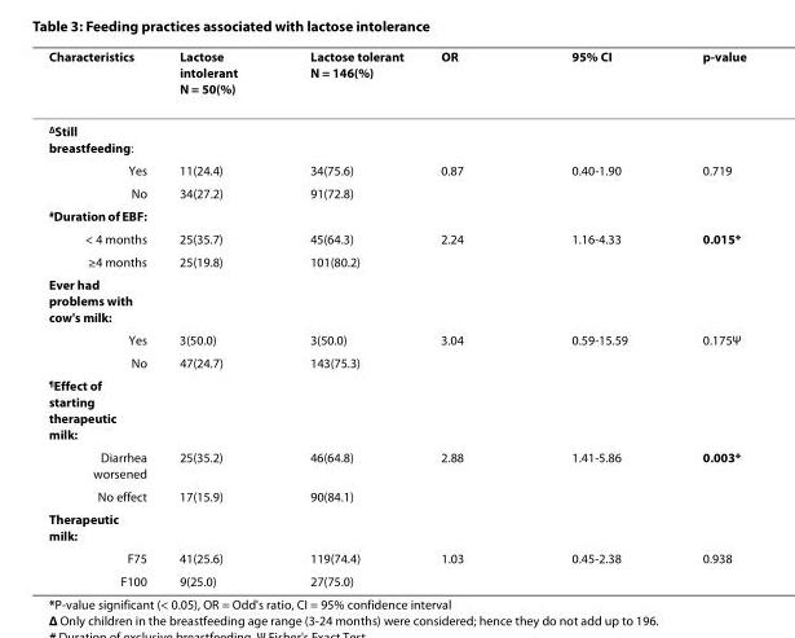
<table><thead><tr><td>Characteristics</td><td>Lactose intolerant N = 50(%)</td><td>Lactose tolerant N = 146(%)</td><td>OR</td><td>95% CI</td><td>p-value</td></tr></thead><tbody><tr><td colspan="6">ΔStill breastfeeding:</td></tr><tr><td>Yes</td><td>11(24.4)</td><td>34(75.6)</td><td>0.87</td><td>0.40-1.90</td><td>0.719</td></tr><tr><td>No</td><td>34(27.2)</td><td>91(72.8)</td><td></td><td></td><td></td></tr><tr><td colspan="6">#Duration of EBF:</td></tr><tr><td>&lt; 4 months</td><td>25(35.7)</td><td>45(64.3)</td><td>2.24</td><td>1.16-4.33</td><td>0.015*</td></tr><tr><td>≥4 months</td><td>25(19.8)</td><td>101(80.2)</td><td></td><td></td><td></td></tr><tr><td colspan="6">Ever had problems with cow&#x27;s milk:</td></tr><tr><td>Yes</td><td>3(50.0)</td><td>3(50.0)</td><td>3.04</td><td>0.59-15.59</td><td>0.175Ψ</td></tr><tr><td>No</td><td>47(24.7)</td><td>143(75.3)</td><td></td><td></td><td></td></tr><tr><td colspan="6">¶Effect of starting therapeutic milk:</td></tr><tr><td>Diarrhea worsened</td><td>25(35.2)</td><td>46(64.8)</td><td>2.88</td><td>1.41-5.86</td><td>0.003*</td></tr><tr><td>No effect</td><td>17(15.9)</td><td>90(84.1)</td><td></td><td></td><td></td></tr><tr><td colspan="6">Therapeutic milk:</td></tr><tr><td>F75</td><td>41(25.6)</td><td>119(74.4)</td><td>1.03</td><td>0.45-2.38</td><td>0.938</td></tr><tr><td>F100</td><td>9(25.0)</td><td>27(75.0)</td><td></td><td></td><td></td></tr></tbody></table>